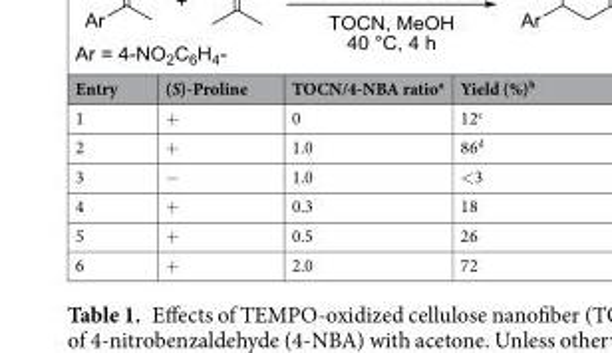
<table><thead><tr><td>Entry</td><td>(S)-Proline</td><td>TOCN/4-NBA ratio<sup>a</sup></td><td>Yield (%)<sup>b</sup></td></tr></thead><tbody><tr><td>1</td><td>+</td><td>0</td><td>12<sup>c</sup></td></tr><tr><td>2</td><td>+</td><td>1.0</td><td>86<sup>d</sup></td></tr><tr><td>3</td><td>−</td><td>1.0</td><td>&lt;3</td></tr><tr><td>4</td><td>+</td><td>0.3</td><td>18</td></tr><tr><td>5</td><td>+</td><td>0.5</td><td>26</td></tr><tr><td>6</td><td>+</td><td>2.0</td><td>72</td></tr></tbody></table>